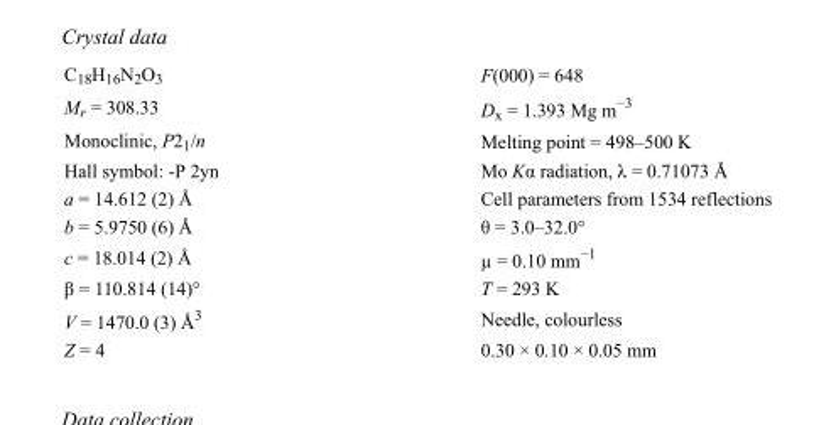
<table><tbody><tr><td>C<sub>18</sub>H<sub>16</sub>N<sub>2</sub>O<sub>3</sub></td><td>F(000) = 648</td></tr><tr><td>M<sub>r</sub> = 308.33</td><td>D<sub>x</sub> = 1.393 Mg m<sup>−3</sup></td></tr><tr><td>Monoclinic, P2<sub>1</sub>/n</td><td>Melting point = 498–500 K</td></tr><tr><td>Hall symbol: -P 2yn</td><td>Mo Kα radiation, λ = 0.71073 Å</td></tr><tr><td>a = 14.612 (2) Å</td><td>Cell parameters from 1534 reflections</td></tr><tr><td>b = 5.9750 (6) Å</td><td>θ = 3.0–32.0°</td></tr><tr><td>c = 18.014 (2) Å</td><td>µ = 0.10 mm<sup>−1</sup></td></tr><tr><td>β = 110.814 (14)°</td><td>T = 293 K</td></tr><tr><td>V = 1470.0 (3) Å<sup>3</sup></td><td>Needle, colourless</td></tr><tr><td>Z = 4</td><td>0.30 × 0.10 × 0.05 mm</td></tr></tbody></table>